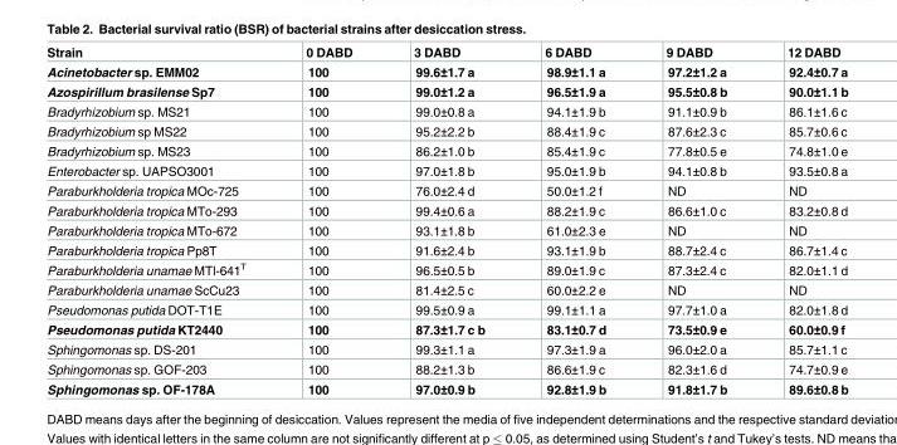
<table><thead><tr><td>Strain</td><td>0 DABD</td><td>3 DABD</td><td>6 DABD</td><td>9 DABD</td><td>12 DABD</td></tr></thead><tbody><tr><td>Acinetobacter sp. EMM02</td><td>100</td><td>99.6±1.7 a</td><td>98.9±1.1 a</td><td>97.2±1.2 a</td><td>92.4±0.7 a</td></tr><tr><td>Azospirillum brasilense Sp7</td><td>100</td><td>99.0±1.2 a</td><td>96.5±1.9 a</td><td>95.5±0.8 b</td><td>90.0±1.1 b</td></tr><tr><td>Bradyrhizobium sp. MS21</td><td>100</td><td>99.0±0.8 a</td><td>94.1±1.9 b</td><td>91.1±0.9 b</td><td>86.1±1.6 c</td></tr><tr><td>Bradyrhizobium sp MS22</td><td>100</td><td>95.2±2.2 b</td><td>88.4±1.9 c</td><td>87.6±2.3 c</td><td>85.7±0.6 c</td></tr><tr><td>Bradyrhizobium sp. MS23</td><td>100</td><td>86.2±1.0 b</td><td>85.4±1.9 c</td><td>77.8±0.5 e</td><td>74.8±1.0 e</td></tr><tr><td>Enterobacter sp. UAPSO3001</td><td>100</td><td>97.0±1.8 b</td><td>95.0±1.9 b</td><td>94.1±0.8 b</td><td>93.5±0.8 a</td></tr><tr><td>Paraburkholderia tropica MOc-725</td><td>100</td><td>76.0±2.4 d</td><td>50.0±1.2 f</td><td>ND</td><td>ND</td></tr><tr><td>Paraburkholderia tropica MTo-293</td><td>100</td><td>99.4±0.6 a</td><td>88.2±1.9 c</td><td>86.6±1.0 c</td><td>83.2±0.8 d</td></tr><tr><td>Paraburkholderia tropica MTo-672</td><td>100</td><td>93.1±1.8 b</td><td>61.0±2.3 e</td><td>ND</td><td>ND</td></tr><tr><td>Paraburkholderia tropica Pp8T</td><td>100</td><td>91.6±2.4 b</td><td>93.1±1.9 b</td><td>88.7±2.4 c</td><td>86.7±1.4 c</td></tr><tr><td>Paraburkholderia unamae MTl-641<sup>T</sup></td><td>100</td><td>96.5±0.5 b</td><td>89.0±1.9 c</td><td>87.3±2.4 c</td><td>82.0±1.1 d</td></tr><tr><td>Paraburkholderia unamae ScCu23</td><td>100</td><td>81.4±2.5 c</td><td>60.0±2.2 e</td><td>ND</td><td>ND</td></tr><tr><td>Pseudomonas putida DOT-T1E</td><td>100</td><td>99.5±0.9 a</td><td>99.1±1.1 a</td><td>97.7±1.0 a</td><td>82.0±1.8 d</td></tr><tr><td>Pseudomonas putida KT2440</td><td>100</td><td>87.3±1.7 c b</td><td>83.1±0.7 d</td><td>73.5±0.9 e</td><td>60.0±0.9 f</td></tr><tr><td>Sphingomonas sp. DS-201</td><td>100</td><td>99.3±1.1 a</td><td>97.3±1.9 a</td><td>96.0±2.0 a</td><td>85.7±1.1 c</td></tr><tr><td>Sphingomonas sp. GOF-203</td><td>100</td><td>88.2±1.3 b</td><td>86.6±1.9 c</td><td>82.3±1.6 d</td><td>74.7±0.9 e</td></tr><tr><td>Sphingomonas sp. OF-178A</td><td>100</td><td>97.0±0.9 b</td><td>92.8±1.9 b</td><td>91.8±1.7 b</td><td>89.6±0.8 b</td></tr></tbody></table>